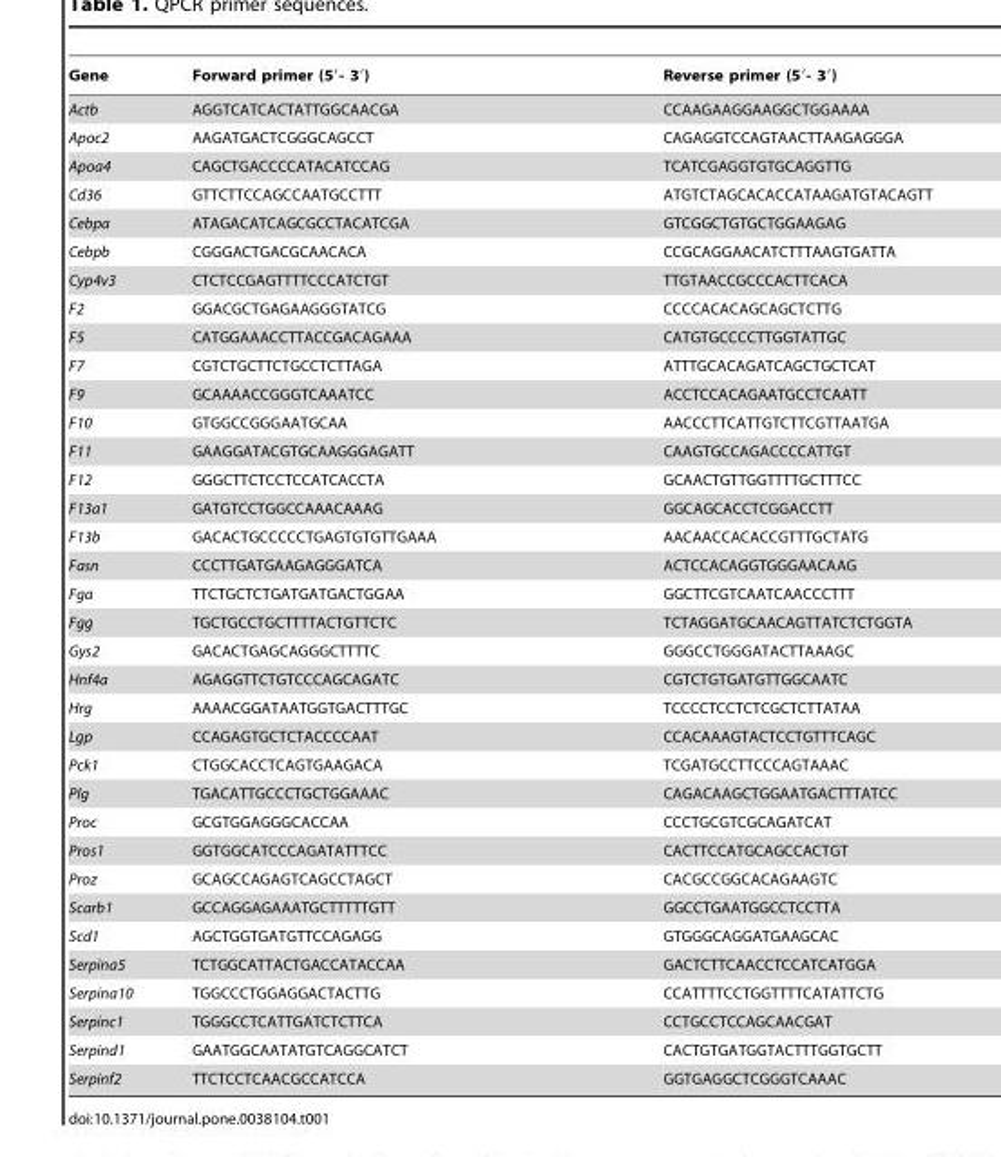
<table><thead><tr><td>Gene</td><td>Forward primer (5′- 3′)</td><td>Reverse primer (5′- 3′)</td></tr></thead><tbody><tr><td>Actb</td><td>AGGTCATCACTATTGGCAACGA</td><td>CCAAGAAGGAAGGCTGGAAAA</td></tr><tr><td>Apoc2</td><td>AAGATGACTCGGGCAGCCT</td><td>CAGAGGTCCAGTAACTTAAGAGGGA</td></tr><tr><td>Apoa4</td><td>CAGCTGACCCCATACATCCAG</td><td>TCATCGAGGTGTGCAGGTTG</td></tr><tr><td>Cd36</td><td>GTTCTTCCAGCCAATGCCTTT</td><td>ATGTCTAGCACACCATAAGATGTACAGTT</td></tr><tr><td>Cebpa</td><td>ATAGACATCAGCGCCTACATCGA</td><td>GTCGGCTGTGCTGGAAGAG</td></tr><tr><td>Cebpb</td><td>CGGGACTGACGCAACACA</td><td>CCGCAGGAACATCTTTAAGTGATTA</td></tr><tr><td>Cyp4v3</td><td>CTCTCCGAGTTTTCCCATCTGT</td><td>TTGTAACCGCCCACTTCACA</td></tr><tr><td>F2</td><td>GGACGCTGAGAAGGGTATCG</td><td>CCCCACACAGCAGCTCTTG</td></tr><tr><td>F5</td><td>CATGGAAACCTTACCGACAGAAA</td><td>CATGTGCCCCTTGGTATTGC</td></tr><tr><td>F7</td><td>CGTCTGCTTCTGCCTCTTAGA</td><td>ATTTGCACAGATCAGCTGCTCAT</td></tr><tr><td>F9</td><td>GCAAAACCGGGTCAAATCC</td><td>ACCTCCACAGAATGCCTCAATT</td></tr><tr><td>F10</td><td>GTGGCCGGGAATGCAA</td><td>AACCCTTCATTGTCTTCGTTAATGA</td></tr><tr><td>F11</td><td>GAAGGATACGTGCAAGGGAGATT</td><td>CAAGTGCCAGACCCCATTGT</td></tr><tr><td>F12</td><td>GGGCTTCTCCTCCATCACCTA</td><td>GCAACTGTTGGTTTTGCTTTCC</td></tr><tr><td>F13a1</td><td>GATGTCCTGGCCAAACAAAG</td><td>GGCAGCACCTCGGACCTT</td></tr><tr><td>F13b</td><td>GACACTGCCCCCTGAGTGTGTTGAAA</td><td>AACAACCACACCGTTTGCTATG</td></tr><tr><td>Fasn</td><td>CCCTTGATGAAGAGGGATCA</td><td>ACTCCACAGGTGGGAACAAG</td></tr><tr><td>Fga</td><td>TTCTGCTCTGATGATGACTGGAA</td><td>GGCTTCGTCAATCAACCCTTT</td></tr><tr><td>Fgg</td><td>TGCTGCCTGCTTTTACTGTTCTC</td><td>TCTAGGATGCAACAGTTATCTCTGGTA</td></tr><tr><td>Gys2</td><td>GACACTGAGCAGGGCTTTTC</td><td>GGGCCTGGGATACTTAAAGC</td></tr><tr><td>Hnf4a</td><td>AGAGGTTCTGTCCCAGCAGATC</td><td>CGTCTGTGATGTTGGCAATC</td></tr><tr><td>Hrg</td><td>AAAACGGATAATGGTGACTTTGC</td><td>TCCCCTCCTCTCGCTCTTATAA</td></tr><tr><td>Lgp</td><td>CCAGAGTGCTCTACCCCAAT</td><td>CCACAAAGTACTCCTGTTTCAGC</td></tr><tr><td>Pck1</td><td>CTGGCACCTCAGTGAAGACA</td><td>TCGATGCCTTCCCAGTAAAC</td></tr><tr><td>Plg</td><td>TGACATTGCCCTGCTGGAAAC</td><td>CAGACAAGCTGGAATGACTTTATCC</td></tr><tr><td>Proc</td><td>GCGTGGAGGGCACCAA</td><td>CCCTGCGTCGCAGATCAT</td></tr><tr><td>Pros1</td><td>GGTGGCATCCCAGATATTTCC</td><td>CACTTCCATGCAGCCACTGT</td></tr><tr><td>Proz</td><td>GCAGCCAGAGTCAGCCTAGCT</td><td>CACGCCGGCACAGAAGTC</td></tr><tr><td>Scarb1</td><td>GCCAGGAGAAATGCTTTTTGTT</td><td>GGCCTGAATGGCCTCCTTA</td></tr><tr><td>Scd1</td><td>AGCTGGTGATGTTCCAGAGG</td><td>GTGGGCAGGATGAAGCAC</td></tr><tr><td>Serpina5</td><td>TCTGGCATTACTGACCATACCAA</td><td>GACTCTTCAACCTCCATCATGGA</td></tr><tr><td>Serpina10</td><td>TGGCCCTGGAGGACTACTTG</td><td>CCATTTTCCTGGTTTTCATATTCTG</td></tr><tr><td>Serpinc1</td><td>TGGGCCTCATTGATCTCTTCA</td><td>CCTGCCTCCAGCAACGAT</td></tr><tr><td>Serpind1</td><td>GAATGGCAATATGTCAGGCATCT</td><td>CACTGTGATGGTACTTTGGTGCTT</td></tr><tr><td>Serpinf2</td><td>TTCTCCTCAACGCCATCCA</td><td>GGTGAGGCTCGGGTCAAAC</td></tr></tbody></table>